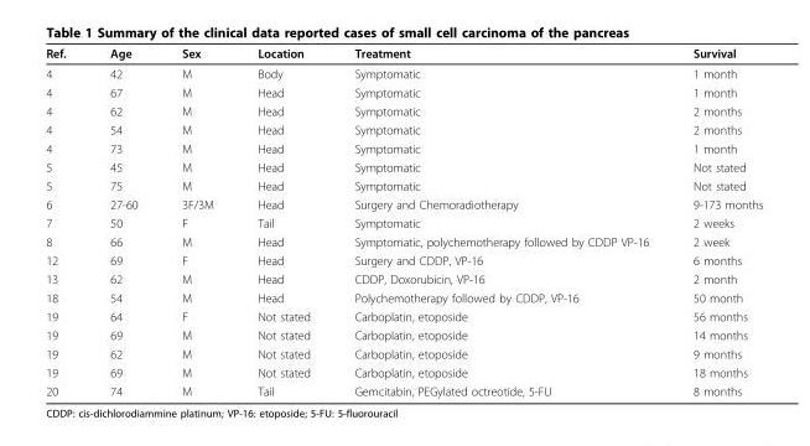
<table><thead><tr><td>Ref.</td><td>Age</td><td>Sex</td><td>Location</td><td>Treatment</td><td>Survival</td></tr></thead><tbody><tr><td>4</td><td>42</td><td>M</td><td>Body</td><td>Symptomatic</td><td>1 month</td></tr><tr><td>4</td><td>67</td><td>M</td><td>Head</td><td>Symptomatic</td><td>1 month</td></tr><tr><td>4</td><td>62</td><td>M</td><td>Head</td><td>Symptomatic</td><td>2 months</td></tr><tr><td>4</td><td>54</td><td>M</td><td>Head</td><td>Symptomatic</td><td>2 months</td></tr><tr><td>4</td><td>73</td><td>M</td><td>Head</td><td>Symptomatic</td><td>1 month</td></tr><tr><td>5</td><td>45</td><td>M</td><td>Head</td><td>Symptomatic</td><td>Not stated</td></tr><tr><td>5</td><td>75</td><td>M</td><td>Head</td><td>Symptomatic</td><td>Not stated</td></tr><tr><td>6</td><td>27-60</td><td>3F/3M</td><td>Head</td><td>Surgery and Chemoradiotherapy</td><td>9-173 months</td></tr><tr><td>7</td><td>50</td><td>F</td><td>Tail</td><td>Symptomatic</td><td>2 weeks</td></tr><tr><td>8</td><td>66</td><td>M</td><td>Head</td><td>Symptomatic, polychemotherapy followed by CDDP VP-16</td><td>2 week</td></tr><tr><td>12</td><td>69</td><td>F</td><td>Head</td><td>Surgery and CDDP, VP-16</td><td>6 months</td></tr><tr><td>13</td><td>62</td><td>M</td><td>Head</td><td>CDDP, Doxorubicin, VP-16</td><td>2 month</td></tr><tr><td>18</td><td>54</td><td>M</td><td>Head</td><td>Polychemotherapy followed by CDDP, VP-16</td><td>50 month</td></tr><tr><td>19</td><td>64</td><td>F</td><td>Not stated</td><td>Carboplatin, etoposide</td><td>56 months</td></tr><tr><td>19</td><td>69</td><td>M</td><td>Not stated</td><td>Carboplatin, etoposide</td><td>14 months</td></tr><tr><td>19</td><td>62</td><td>M</td><td>Not stated</td><td>Carboplatin, etoposide</td><td>9 months</td></tr><tr><td>19</td><td>69</td><td>M</td><td>Not stated</td><td>Carboplatin, etoposide</td><td>18 months</td></tr><tr><td>20</td><td>74</td><td>M</td><td>Tail</td><td>Gemcitabin, PEGylated octreotide, 5-FU</td><td>8 months</td></tr></tbody></table>